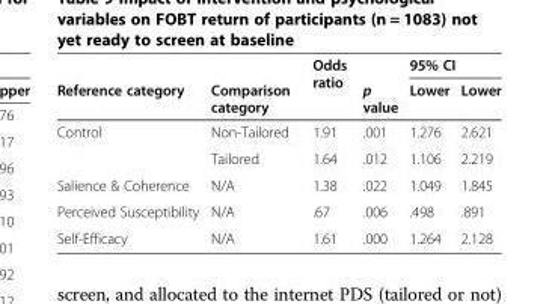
<table><thead><tr><td rowspan="2">Reference category</td><td rowspan="2">Comparison category</td><td rowspan="2">Odds ratio</td><td rowspan="2">p value</td><td colspan="2">95% CI</td></tr><tr><td>Lower</td><td>Lower</td></tr></thead><tbody><tr><td rowspan="2">Control</td><td>Non-Tailored</td><td>1.91</td><td>.001</td><td>1.276</td><td>2.621</td></tr><tr><td>Tailored</td><td>1.64</td><td>.012</td><td>1.106</td><td>2.219</td></tr><tr><td>Salience &amp; Coherence</td><td>N/A</td><td>1.38</td><td>.022</td><td>1.049</td><td>1.845</td></tr><tr><td>Perceived Susceptibility</td><td>N/A</td><td>.67</td><td>.006</td><td>.498</td><td>.891</td></tr><tr><td>Self-Efficacy</td><td>N/A</td><td>1.61</td><td>.000</td><td>1.264</td><td>2.128</td></tr></tbody></table>